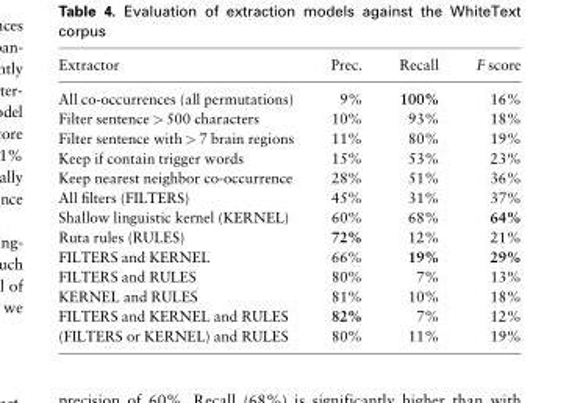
<table><thead><tr><td>Extractor</td><td>Prec.</td><td>Recall</td><td>F score</td></tr></thead><tbody><tr><td>All co-occurrences (all permutations)</td><td>9%</td><td>100%</td><td>16%</td></tr><tr><td>Filter sentence &gt; 500 characters</td><td>10%</td><td>93%</td><td>18%</td></tr><tr><td>Filter sentence with &gt; 7 brain regions</td><td>11%</td><td>80%</td><td>19%</td></tr><tr><td>Keep if contain trigger words</td><td>15%</td><td>53%</td><td>23%</td></tr><tr><td>Keep nearest neighbor co-occurrence</td><td>28%</td><td>51%</td><td>36%</td></tr><tr><td>All filters (FILTERS)</td><td>45%</td><td>31%</td><td>37%</td></tr><tr><td>Shallow linguistic kernel (KERNEL)</td><td>60%</td><td>68%</td><td>64%</td></tr><tr><td>Ruta rules (RULES)</td><td>72%</td><td>12%</td><td>21%</td></tr><tr><td>FILTERS and KERNEL</td><td>66%</td><td>19%</td><td>29%</td></tr><tr><td>FILTERS and RULES</td><td>80%</td><td>7%</td><td>13%</td></tr><tr><td>KERNEL and RULES</td><td>81%</td><td>10%</td><td>18%</td></tr><tr><td>FILTERS and KERNEL and RULES</td><td>82%</td><td>7%</td><td>12%</td></tr><tr><td>(FILTERS or KERNEL) and RULES</td><td>80%</td><td>11%</td><td>19%</td></tr></tbody></table>